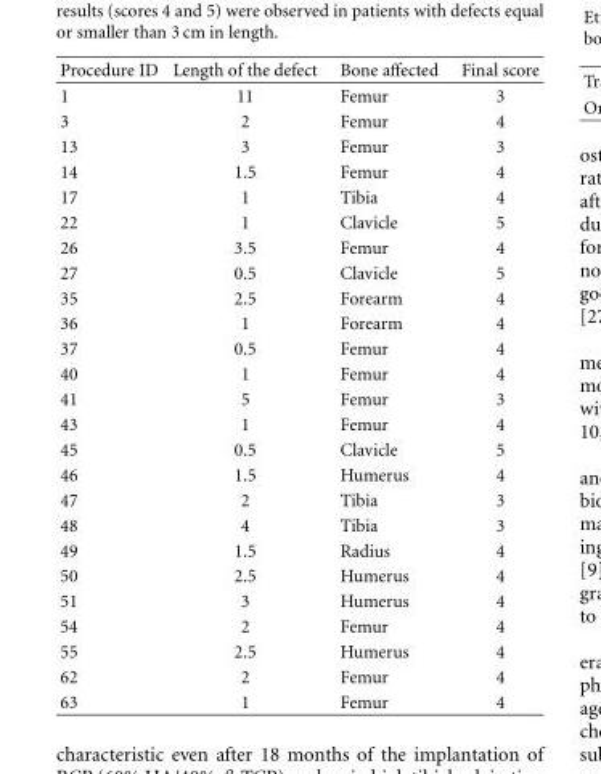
<table><thead><tr><td>Procedure ID</td><td>Length of the defect</td><td>Bone affected</td><td>Final score</td></tr></thead><tbody><tr><td>1</td><td>11</td><td>Femur</td><td>3</td></tr><tr><td>3</td><td>2</td><td>Femur</td><td>4</td></tr><tr><td>13</td><td>3</td><td>Femur</td><td>3</td></tr><tr><td>14</td><td>1.5</td><td>Femur</td><td>4</td></tr><tr><td>17</td><td>1</td><td>Tibia</td><td>4</td></tr><tr><td>22</td><td>1</td><td>Clavicle</td><td>5</td></tr><tr><td>26</td><td>3.5</td><td>Femur</td><td>4</td></tr><tr><td>27</td><td>0.5</td><td>Clavicle</td><td>5</td></tr><tr><td>35</td><td>2.5</td><td>Forearm</td><td>4</td></tr><tr><td>36</td><td>1</td><td>Forearm</td><td>4</td></tr><tr><td>37</td><td>0.5</td><td>Femur</td><td>4</td></tr><tr><td>40</td><td>1</td><td>Femur</td><td>4</td></tr><tr><td>41</td><td>5</td><td>Femur</td><td>3</td></tr><tr><td>43</td><td>1</td><td>Femur</td><td>4</td></tr><tr><td>45</td><td>0.5</td><td>Clavicle</td><td>5</td></tr><tr><td>46</td><td>1.5</td><td>Humerus</td><td>4</td></tr><tr><td>47</td><td>2</td><td>Tibia</td><td>3</td></tr><tr><td>48</td><td>4</td><td>Tibia</td><td>3</td></tr><tr><td>49</td><td>1.5</td><td>Radius</td><td>4</td></tr><tr><td>50</td><td>2.5</td><td>Humerus</td><td>4</td></tr><tr><td>51</td><td>3</td><td>Humerus</td><td>4</td></tr><tr><td>54</td><td>2</td><td>Femur</td><td>4</td></tr><tr><td>55</td><td>2.5</td><td>Humerus</td><td>4</td></tr><tr><td>62</td><td>2</td><td>Femur</td><td>4</td></tr><tr><td>63</td><td>1</td><td>Femur</td><td>4</td></tr></tbody></table>